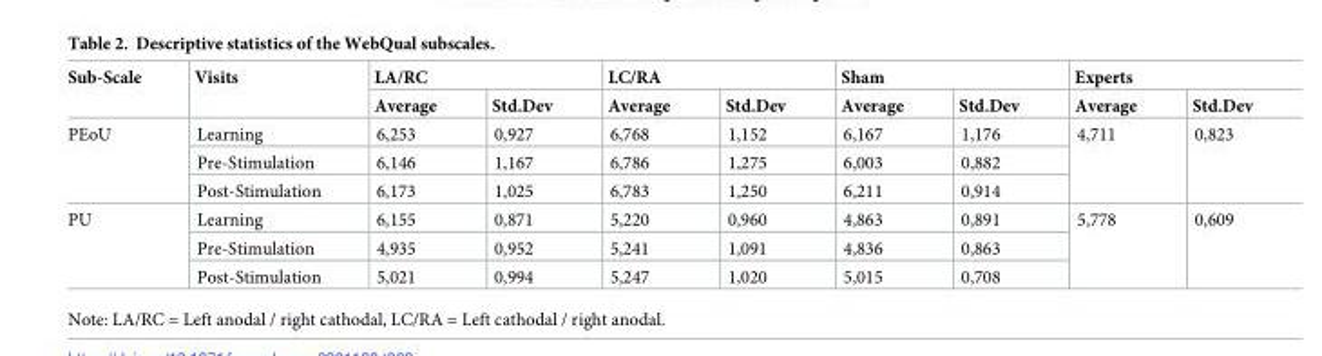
<table><thead><tr><td rowspan="2">Sub-Scale</td><td rowspan="2">Visits</td><td colspan="2">LA/RC</td><td colspan="2">LC/RA</td><td colspan="2">Sham</td><td colspan="2">Experts</td></tr><tr><td>Average</td><td>Std.Dev</td><td>Average</td><td>Std.Dev</td><td>Average</td><td>Std.Dev</td><td>Average</td><td>Std.Dev</td></tr></thead><tbody><tr><td rowspan="3">PEoU</td><td>Learning</td><td>6,253</td><td>0,927</td><td>6,768</td><td>1,152</td><td>6,167</td><td>1,176</td><td rowspan="3">4,711</td><td rowspan="3">0,823</td></tr><tr><td>Pre-Stimulation</td><td>6,146</td><td>1,167</td><td>6,786</td><td>1,275</td><td>6,003</td><td>0,882</td></tr><tr><td>Post-Stimulation</td><td>6,173</td><td>1,025</td><td>6,783</td><td>1,250</td><td>6,211</td><td>0,914</td></tr><tr><td rowspan="3">PU</td><td>Learning</td><td>6,155</td><td>0,871</td><td>5,220</td><td>0,960</td><td>4,863</td><td>0,891</td><td rowspan="3">5,778</td><td rowspan="3">0,609</td></tr><tr><td>Pre-Stimulation</td><td>4,935</td><td>0,952</td><td>5,241</td><td>1,091</td><td>4,836</td><td>0,863</td></tr><tr><td>Post-Stimulation</td><td>5,021</td><td>0,994</td><td>5,247</td><td>1,020</td><td>5,015</td><td>0,708</td></tr></tbody></table>